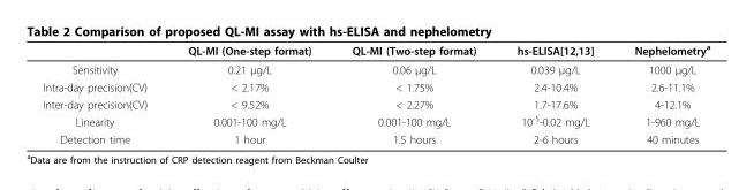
<table><thead><tr><td></td><td>QL-MI (One-step format)</td><td>QL-MI (Two-step format)</td><td>hs-ELISA[12,13]</td><td>Nephelometry<sup>a</sup></td></tr></thead><tbody><tr><td>Sensitivity</td><td>0.21 μg/L</td><td>0.06 μg/L</td><td>0.039 μg/L</td><td>1000 μg/L</td></tr><tr><td>Intra-day precision(CV)</td><td>&lt; 2.17%</td><td>&lt; 1.75%</td><td>2.4-10.4%</td><td>2.6-11.1%</td></tr><tr><td>Inter-day precision(CV)</td><td>&lt; 9.52%</td><td>&lt; 2.27%</td><td>1.7-17.6%</td><td>4-12.1%</td></tr><tr><td>Linearity</td><td>0.001-100 mg/L</td><td>0.001-100 mg/L</td><td>10<sup>-5</sup>-0.02 mg/L</td><td>1-960 mg/L</td></tr><tr><td>Detection time</td><td>1 hour</td><td>1.5 hours</td><td>2-6 hours</td><td>40 minutes</td></tr></tbody></table>